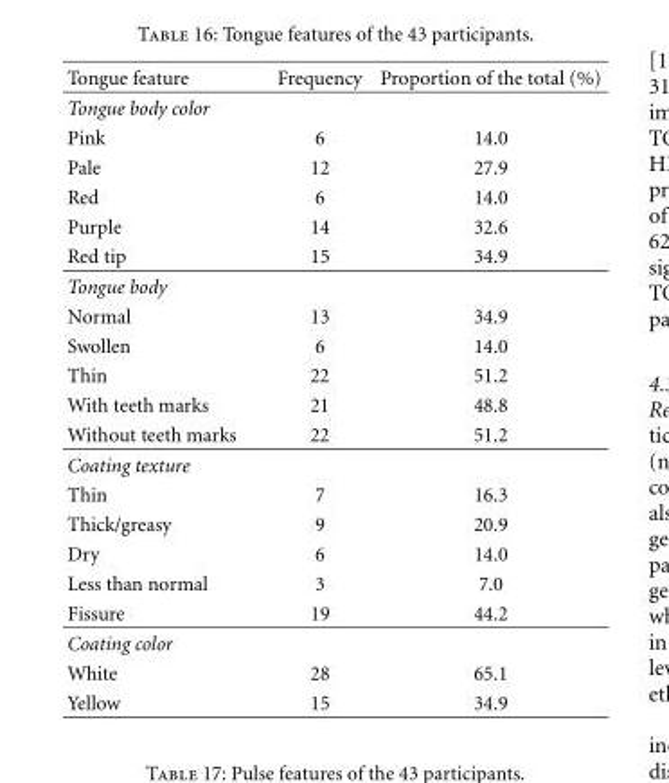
<table><thead><tr><td>Tongue feature</td><td>Frequency</td><td>Proportion of the total (%)</td></tr></thead><tbody><tr><td colspan="3">Tongue body color</td></tr><tr><td>Pink</td><td>6</td><td>14.0</td></tr><tr><td>Pale</td><td>12</td><td>27.9</td></tr><tr><td>Red</td><td>6</td><td>14.0</td></tr><tr><td>Purple</td><td>14</td><td>32.6</td></tr><tr><td>Red tip</td><td>15</td><td>34.9</td></tr><tr><td colspan="3">Tongue body</td></tr><tr><td>Normal</td><td>13</td><td>34.9</td></tr><tr><td>Swollen</td><td>6</td><td>14.0</td></tr><tr><td>Thin</td><td>22</td><td>51.2</td></tr><tr><td>With teeth marks</td><td>21</td><td>48.8</td></tr><tr><td>Without teeth marks</td><td>22</td><td>51.2</td></tr><tr><td colspan="3">Coating texture</td></tr><tr><td>Thin</td><td>7</td><td>16.3</td></tr><tr><td>Thick/greasy</td><td>9</td><td>20.9</td></tr><tr><td>Dry</td><td>6</td><td>14.0</td></tr><tr><td>Less than normal</td><td>3</td><td>7.0</td></tr><tr><td>Fissure</td><td>19</td><td>44.2</td></tr><tr><td colspan="3">Coating color</td></tr><tr><td>White</td><td>28</td><td>65.1</td></tr><tr><td>Yellow</td><td>15</td><td>34.9</td></tr></tbody></table>